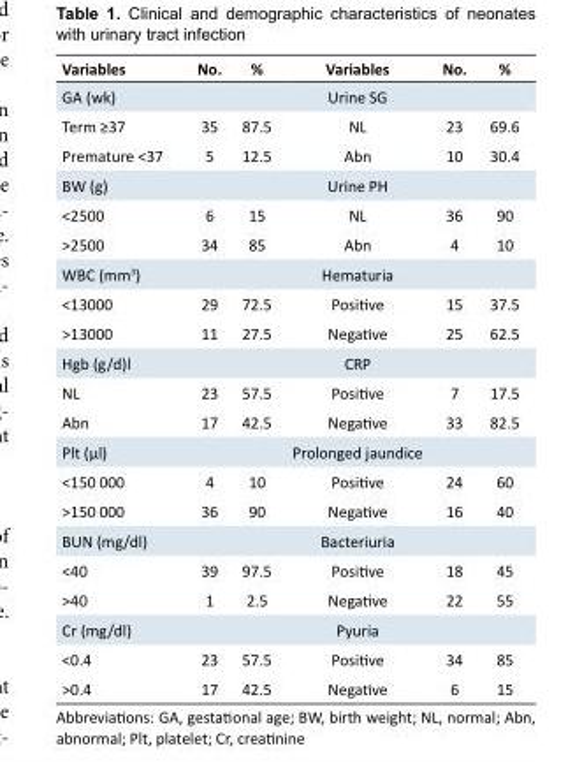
<table><tbody><tr><td>Variables</td><td>No.</td><td>%</td><td>Variables</td><td>No.</td><td>%</td></tr><tr><td>GA (wk)</td><td></td><td></td><td>Urine SG</td><td></td><td></td></tr><tr><td>Term ≥37</td><td>35</td><td>87.5</td><td>NL</td><td>23</td><td>69.6</td></tr><tr><td>Premature &lt;37</td><td>5</td><td>12.5</td><td>Abn</td><td>10</td><td>30.4</td></tr><tr><td>BW (g)</td><td></td><td></td><td>Urine PH</td><td></td><td></td></tr><tr><td>&lt;2500</td><td>6</td><td>15</td><td>NL</td><td>36</td><td>90</td></tr><tr><td>&gt;2500</td><td>34</td><td>85</td><td>Abn</td><td>4</td><td>10</td></tr><tr><td>WBC (mm<sup>3</sup>)</td><td></td><td></td><td>Hematuria</td><td></td><td></td></tr><tr><td>&lt;13000</td><td>29</td><td>72.5</td><td>Positive</td><td>15</td><td>37.5</td></tr><tr><td>&gt;13000</td><td>11</td><td>27.5</td><td>Negative</td><td>25</td><td>62.5</td></tr><tr><td>Hgb (g/d)l</td><td></td><td></td><td>CRP</td><td></td><td></td></tr><tr><td>NL</td><td>23</td><td>57.5</td><td>Positive</td><td>7</td><td>17.5</td></tr><tr><td>Abn</td><td>17</td><td>42.5</td><td>Negative</td><td>33</td><td>82.5</td></tr><tr><td>Plt (µl)</td><td></td><td></td><td>Prolonged jaundice</td><td></td><td></td></tr><tr><td>&lt;150 000</td><td>4</td><td>10</td><td>Positive</td><td>24</td><td>60</td></tr><tr><td>&gt;150 000</td><td>36</td><td>90</td><td>Negative</td><td>16</td><td>40</td></tr><tr><td>BUN (mg/dl)</td><td></td><td></td><td>Bacteriuria</td><td></td><td></td></tr><tr><td>&lt;40</td><td>39</td><td>97.5</td><td>Positive</td><td>18</td><td>45</td></tr><tr><td>&gt;40</td><td>1</td><td>2.5</td><td>Negative</td><td>22</td><td>55</td></tr><tr><td>Cr (mg/dl)</td><td></td><td></td><td>Pyuria</td><td></td><td></td></tr><tr><td>&lt;0.4</td><td>23</td><td>57.5</td><td>Positive</td><td>34</td><td>85</td></tr><tr><td>&gt;0.4</td><td>17</td><td>42.5</td><td>Negative</td><td>6</td><td>15</td></tr></tbody></table>